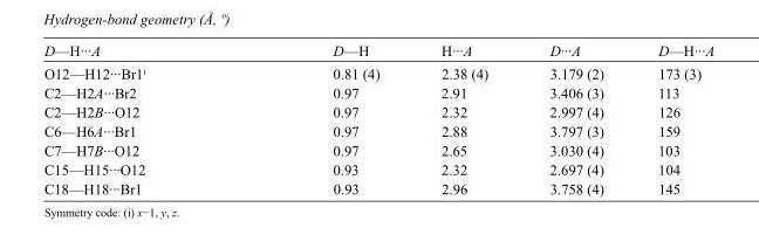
<table><tbody><tr><td>D—H···A</td><td>D—H</td><td>H···A</td><td>D···A</td><td>D—H···A</td></tr><tr><td>O12—H12···Br1<sup>i</sup></td><td>0.81 (4)</td><td>2.38 (4)</td><td>3.179 (2)</td><td>173 (3)</td></tr><tr><td>C2—H2A···Br2</td><td>0.97</td><td>2.91</td><td>3.406 (3)</td><td>113</td></tr><tr><td>C2—H2B···O12</td><td>0.97</td><td>2.32</td><td>2.997 (4)</td><td>126</td></tr><tr><td>C6—H6A···Br1</td><td>0.97</td><td>2.88</td><td>3.797 (3)</td><td>159</td></tr><tr><td>C7—H7B···O12</td><td>0.97</td><td>2.65</td><td>3.030 (4)</td><td>103</td></tr><tr><td>C15—H15···O12</td><td>0.93</td><td>2.32</td><td>2.697 (4)</td><td>104</td></tr><tr><td>C18—H18···Br1</td><td>0.93</td><td>2.96</td><td>3.758 (4)</td><td>145</td></tr></tbody></table>